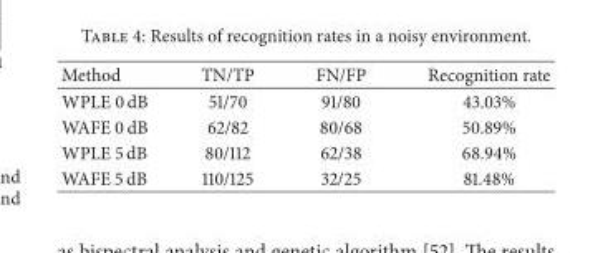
<table><thead><tr><td>Method</td><td>TN/TP</td><td>FN/FP</td><td>Recognition rate</td></tr></thead><tbody><tr><td>WPLE 0 dB</td><td>51/70</td><td>91/80</td><td>43.03%</td></tr><tr><td>WAFE 0 dB</td><td>62/82</td><td>80/68</td><td>50.89%</td></tr><tr><td>WPLE 5 dB</td><td>80/112</td><td>62/38</td><td>68.94%</td></tr><tr><td>WAFE 5 dB</td><td>110/125</td><td>32/25</td><td>81.48%</td></tr></tbody></table>